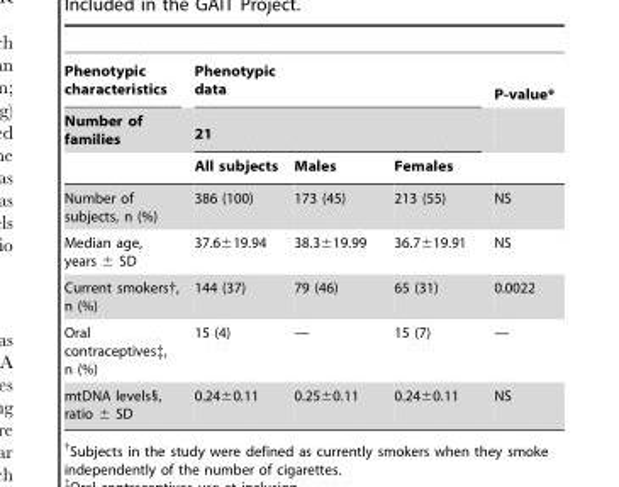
<table><thead><tr><td rowspan="3">Phenotypic characteristics Number of families</td><td rowspan="2" colspan="3">Phenotypic data 21</td><td rowspan="3">P-value*</td></tr><tr></tr><tr><td>All subjects</td><td>Males</td><td>Females</td></tr></thead><tbody><tr><td>Number of subjects, n (%)</td><td>386 (100)</td><td>173 (45)</td><td>213 (55)</td><td>NS</td></tr><tr><td>Median age, years ± SD</td><td>37.6±19.94</td><td>38.3±19.99</td><td>36.7±19.91</td><td>NS</td></tr><tr><td>Current smokers†, n (%)</td><td>144 (37)</td><td>79 (46)</td><td>65 (31)</td><td>0.0022</td></tr><tr><td>Oral contraceptives‡, n (%)</td><td>15 (4)</td><td>—</td><td>15 (7)</td><td>—</td></tr><tr><td>mtDNA levels§, ratio ± SD</td><td>0.24±0.11</td><td>0.25±0.11</td><td>0.24±0.11</td><td>NS</td></tr></tbody></table>